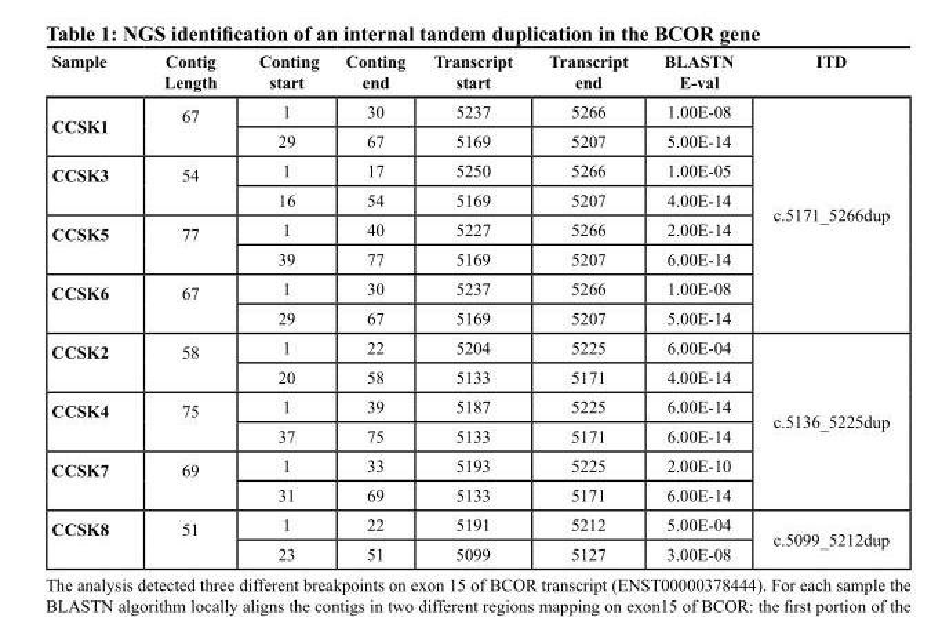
<table><thead><tr><td>Sample</td><td>Contig Length</td><td>Conting start</td><td>Conting end</td><td>Transcript start</td><td>Transcript end</td><td>BLASTN E-val</td><td>ITD</td></tr></thead><tbody><tr><td rowspan="2">CCSK1</td><td rowspan="2">67</td><td>1</td><td>30</td><td>5237</td><td>5266</td><td>1.00E-08</td><td rowspan="8">c.5171_5266dup</td></tr><tr><td>29</td><td>67</td><td>5169</td><td>5207</td><td>5.00E-14</td></tr><tr><td rowspan="2">CCSK3</td><td rowspan="2">54</td><td>1</td><td>17</td><td>5250</td><td>5266</td><td>1.00E-05</td></tr><tr><td>16</td><td>54</td><td>5169</td><td>5207</td><td>4.00E-14</td></tr><tr><td rowspan="2">CCSK5</td><td rowspan="2">77</td><td>1</td><td>40</td><td>5227</td><td>5266</td><td>2.00E-14</td></tr><tr><td>39</td><td>77</td><td>5169</td><td>5207</td><td>6.00E-14</td></tr><tr><td rowspan="2">CCSK6</td><td rowspan="2">67</td><td>1</td><td>30</td><td>5237</td><td>5266</td><td>1.00E-08</td></tr><tr><td>29</td><td>67</td><td>5169</td><td>5207</td><td>5.00E-14</td></tr><tr><td rowspan="2">CCSK2</td><td rowspan="2">58</td><td>1</td><td>22</td><td>5204</td><td>5225</td><td>6.00E-04</td><td rowspan="6">c.5136_5225dup</td></tr><tr><td>20</td><td>58</td><td>5133</td><td>5171</td><td>4.00E-14</td></tr><tr><td rowspan="2">CCSK4</td><td rowspan="2">75</td><td>1</td><td>39</td><td>5187</td><td>5225</td><td>6.00E-14</td></tr><tr><td>37</td><td>75</td><td>5133</td><td>5171</td><td>6.00E-14</td></tr><tr><td rowspan="2">CCSK7</td><td rowspan="2">69</td><td>1</td><td>33</td><td>5193</td><td>5225</td><td>2.00E-10</td></tr><tr><td>31</td><td>69</td><td>5133</td><td>5171</td><td>6.00E-14</td></tr><tr><td rowspan="2">CCSK8</td><td rowspan="2">51</td><td>1</td><td>22</td><td>5191</td><td>5212</td><td>5.00E-04</td><td rowspan="2">c.5099_5212dup</td></tr><tr><td>23</td><td>51</td><td>5099</td><td>5127</td><td>3.00E-08</td></tr></tbody></table>